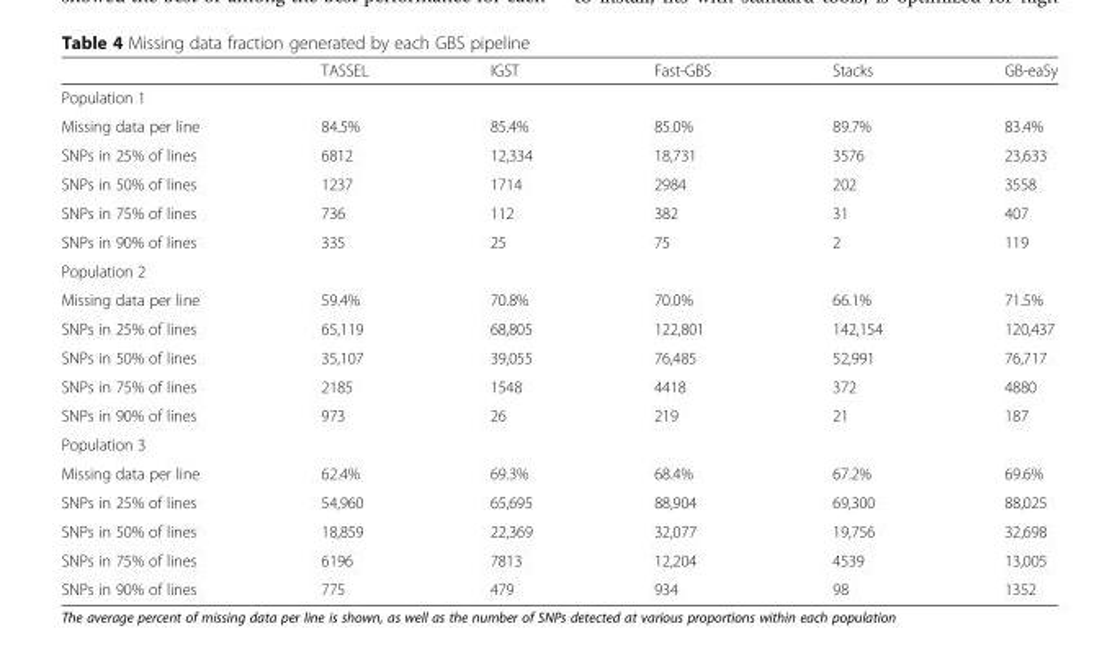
<table><thead><tr><td></td><td>TASSEL</td><td>IGST</td><td>Fast-GBS</td><td>Stacks</td><td>GB-eaSy</td></tr></thead><tbody><tr><td colspan="6">Population 1</td></tr><tr><td>Missing data per line</td><td>84.5%</td><td>85.4%</td><td>85.0%</td><td>89.7%</td><td>83.4%</td></tr><tr><td>SNPs in 25% of lines</td><td>6812</td><td>12,334</td><td>18,731</td><td>3576</td><td>23,633</td></tr><tr><td>SNPs in 50% of lines</td><td>1237</td><td>1714</td><td>2984</td><td>202</td><td>3558</td></tr><tr><td>SNPs in 75% of lines</td><td>736</td><td>112</td><td>382</td><td>31</td><td>407</td></tr><tr><td>SNPs in 90% of lines</td><td>335</td><td>25</td><td>75</td><td>2</td><td>119</td></tr><tr><td colspan="6">Population 2</td></tr><tr><td>Missing data per line</td><td>59.4%</td><td>70.8%</td><td>70.0%</td><td>66.1%</td><td>71.5%</td></tr><tr><td>SNPs in 25% of lines</td><td>65,119</td><td>68,805</td><td>122,801</td><td>142,154</td><td>120,437</td></tr><tr><td>SNPs in 50% of lines</td><td>35,107</td><td>39,055</td><td>76,485</td><td>52,991</td><td>76,717</td></tr><tr><td>SNPs in 75% of lines</td><td>2185</td><td>1548</td><td>4418</td><td>372</td><td>4880</td></tr><tr><td>SNPs in 90% of lines</td><td>973</td><td>26</td><td>219</td><td>21</td><td>187</td></tr><tr><td colspan="6">Population 3</td></tr><tr><td>Missing data per line</td><td>62.4%</td><td>69.3%</td><td>68.4%</td><td>67.2%</td><td>69.6%</td></tr><tr><td>SNPs in 25% of lines</td><td>54,960</td><td>65,695</td><td>88,904</td><td>69,300</td><td>88,025</td></tr><tr><td>SNPs in 50% of lines</td><td>18,859</td><td>22,369</td><td>32,077</td><td>19,756</td><td>32,698</td></tr><tr><td>SNPs in 75% of lines</td><td>6196</td><td>7813</td><td>12,204</td><td>4539</td><td>13,005</td></tr><tr><td>SNPs in 90% of lines</td><td>775</td><td>479</td><td>934</td><td>98</td><td>1352</td></tr></tbody></table>